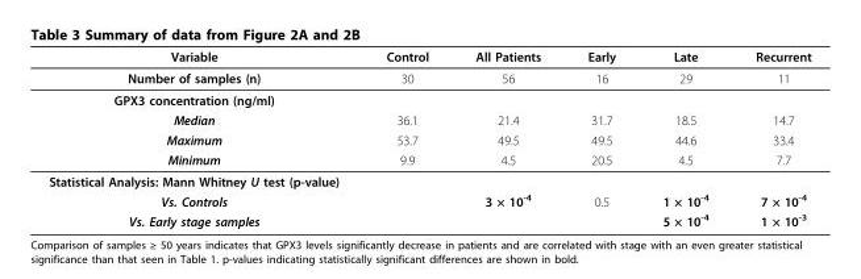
<table><thead><tr><td>Variable</td><td>Control</td><td>All Patients</td><td>Early</td><td>Late</td><td>Recurrent</td></tr></thead><tbody><tr><td>Number of samples (n)</td><td>30</td><td>56</td><td>16</td><td>29</td><td>11</td></tr><tr><td colspan="6">GPX3 concentration (ng/ml)</td></tr><tr><td>Median</td><td>36.1</td><td>21.4</td><td>31.7</td><td>18.5</td><td>14.7</td></tr><tr><td>Maximum</td><td>53.7</td><td>49.5</td><td>49.5</td><td>44.6</td><td>33.4</td></tr><tr><td>Minimum</td><td>9.9</td><td>4.5</td><td>20.5</td><td>4.5</td><td>7.7</td></tr><tr><td colspan="6">Statistical Analysis: Mann Whitney U test (p-value)</td></tr><tr><td>Vs. Controls</td><td></td><td>3 × 10<sup>-4</sup></td><td>0.5</td><td>1 × 10<sup>-4</sup></td><td>7 × 10<sup>-4</sup></td></tr><tr><td>Vs. Early stage samples</td><td></td><td></td><td></td><td>5 × 10<sup>-4</sup></td><td>1 × 10<sup>-3</sup></td></tr></tbody></table>